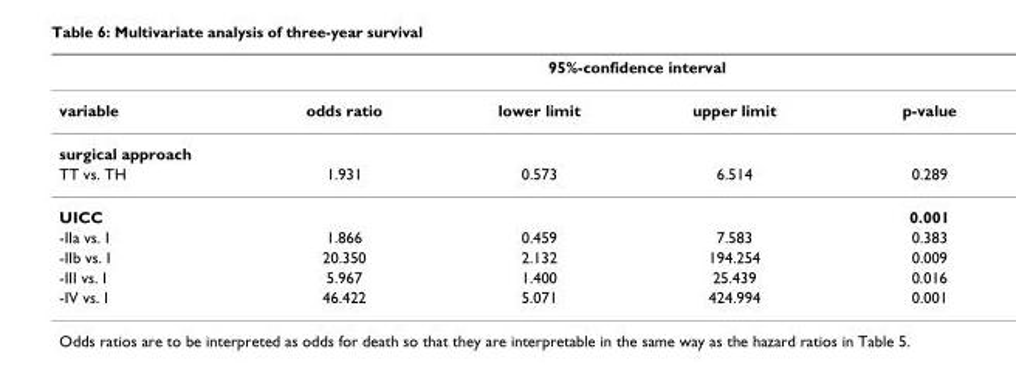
<table><thead><tr><td rowspan="2">variable</td><td rowspan="2">odds ratio</td><td colspan="2">95%-confidence interval</td><td rowspan="2">p-value</td></tr><tr><td>lower limit</td><td>upper limit</td></tr></thead><tbody><tr><td colspan="5">surgical approach</td></tr><tr><td>TT vs. TH</td><td>1.931</td><td>0.573</td><td>6.514</td><td>0.289</td></tr><tr><td>UICC</td><td></td><td></td><td></td><td>0.001</td></tr><tr><td>-IIa vs. I</td><td>1.866</td><td>0.459</td><td>7.583</td><td>0.383</td></tr><tr><td>-IIb vs. I</td><td>20.350</td><td>2.132</td><td>194.254</td><td>0.009</td></tr><tr><td>-III vs. I</td><td>5.967</td><td>1.400</td><td>25.439</td><td>0.016</td></tr><tr><td>-IV vs. I</td><td>46.422</td><td>5.071</td><td>424.994</td><td>0.001</td></tr></tbody></table>